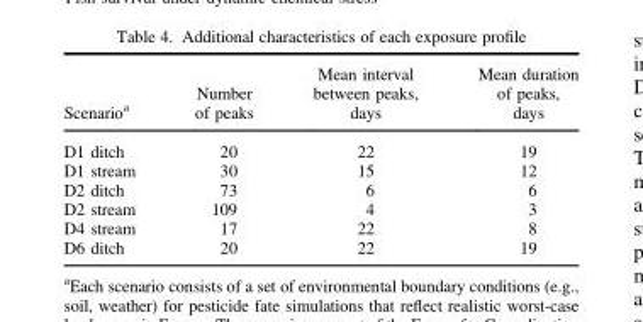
<table><thead><tr><td>Scenario<sup>a</sup></td><td>Number of peaks</td><td>Mean interval between peaks, days</td><td>Mean duration of peaks, days</td></tr></thead><tbody><tr><td>D1 ditch</td><td>20</td><td>22</td><td>19</td></tr><tr><td>D1 stream</td><td>30</td><td>15</td><td>12</td></tr><tr><td>D2 ditch</td><td>73</td><td>6</td><td>6</td></tr><tr><td>D2 stream</td><td>109</td><td>4</td><td>3</td></tr><tr><td>D4 stream</td><td>17</td><td>22</td><td>8</td></tr><tr><td>D6 ditch</td><td>20</td><td>22</td><td>19</td></tr></tbody></table>